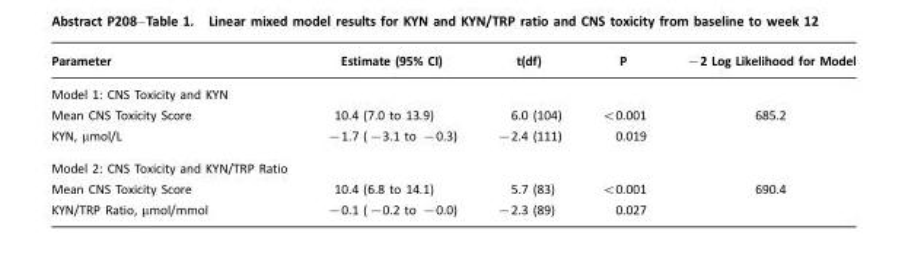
<table><thead><tr><td>Parameter</td><td>Estimate (95% CI)</td><td>t(df)</td><td>P</td><td>−2 Log Likelihood for Model</td></tr></thead><tbody><tr><td colspan="5">Model 1: CNS Toxicity and KYN</td></tr><tr><td>Mean CNS Toxicity Score</td><td>10.4 (7.0 to 13.9)</td><td>6.0 (104)</td><td>&lt;0.001</td><td>685.2</td></tr><tr><td>KYN, µmol/L</td><td>−1.7 (−3.1 to −0.3)</td><td>−2.4 (111)</td><td>0.019</td><td></td></tr><tr><td colspan="5">Model 2: CNS Toxicity and KYN/TRP Ratio</td></tr><tr><td>Mean CNS Toxicity Score</td><td>10.4 (6.8 to 14.1)</td><td>5.7 (83)</td><td>&lt;0.001</td><td>690.4</td></tr><tr><td>KYN/TRP Ratio, µmol/mmol</td><td>−0.1 (−0.2 to −0.0)</td><td>−2.3 (89)</td><td>0.027</td><td></td></tr></tbody></table>